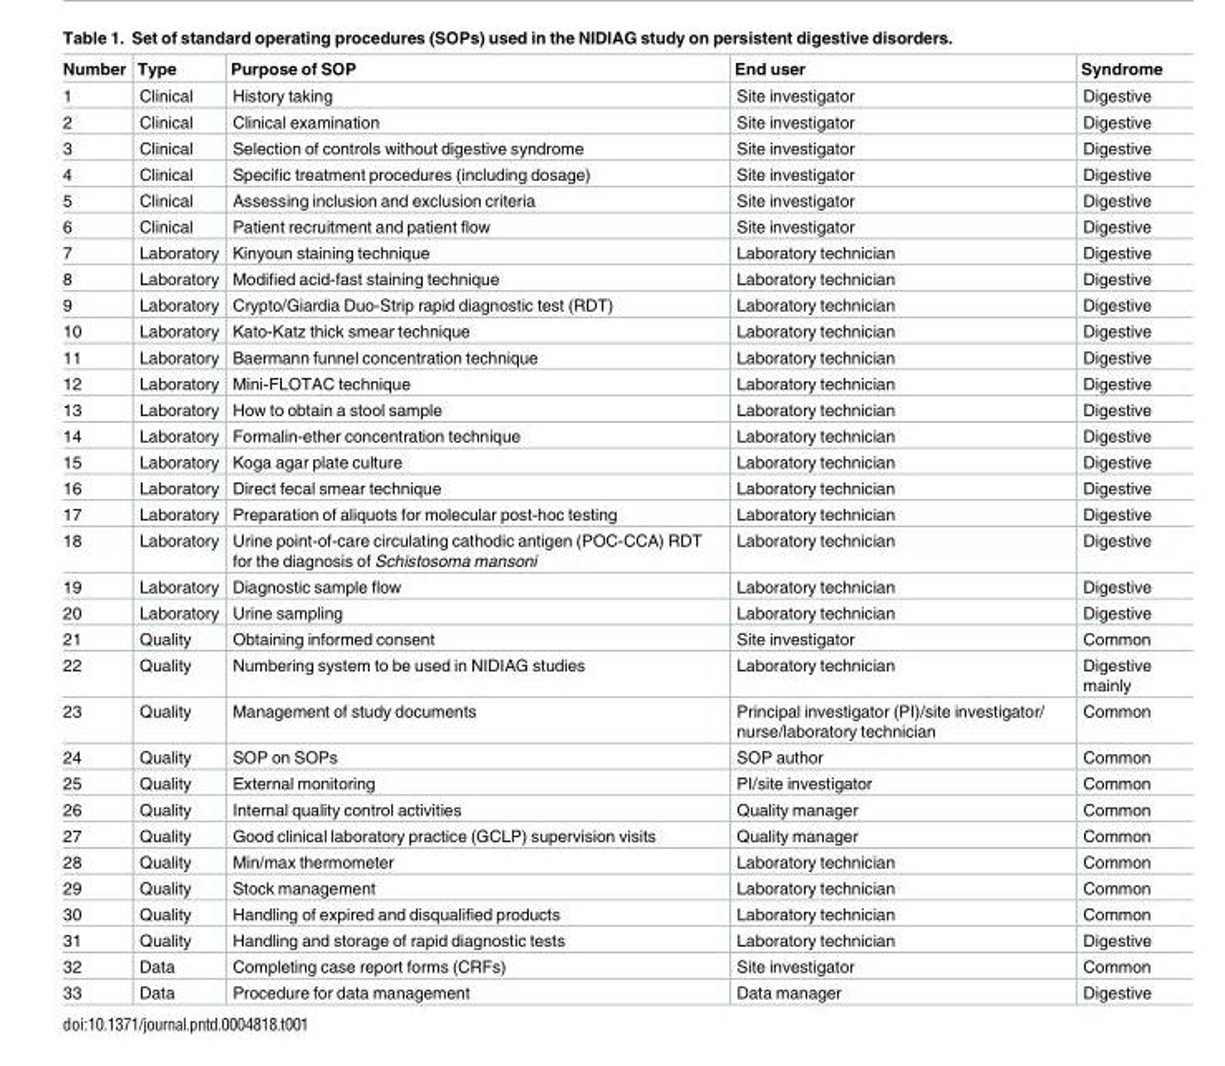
<table><thead><tr><td>Number</td><td>Type</td><td>Purpose of SOP</td><td>End user</td><td>Syndrome</td></tr></thead><tbody><tr><td>1</td><td>Clinical</td><td>History taking</td><td>Site investigator</td><td>Digestive</td></tr><tr><td>2</td><td>Clinical</td><td>Clinical examination</td><td>Site investigator</td><td>Digestive</td></tr><tr><td>3</td><td>Clinical</td><td>Selection of controls without digestive syndrome</td><td>Site investigator</td><td>Digestive</td></tr><tr><td>4</td><td>Clinical</td><td>Specific treatment procedures (including dosage)</td><td>Site investigator</td><td>Digestive</td></tr><tr><td>5</td><td>Clinical</td><td>Assessing inclusion and exclusion criteria</td><td>Site investigator</td><td>Digestive</td></tr><tr><td>6</td><td>Clinical</td><td>Patient recruitment and patient flow</td><td>Site investigator</td><td>Digestive</td></tr><tr><td>7</td><td>Laboratory</td><td>Kinyoun staining technique</td><td>Laboratory technician</td><td>Digestive</td></tr><tr><td>8</td><td>Laboratory</td><td>Modified acid-fast staining technique</td><td>Laboratory technician</td><td>Digestive</td></tr><tr><td>9</td><td>Laboratory</td><td>Crypto/Giardia Duo-Strip rapid diagnostic test (RDT)</td><td>Laboratory technician</td><td>Digestive</td></tr><tr><td>10</td><td>Laboratory</td><td>Kato-Katz thick smear technique</td><td>Laboratory technician</td><td>Digestive</td></tr><tr><td>11</td><td>Laboratory</td><td>Baermann funnel concentration technique</td><td>Laboratory technician</td><td>Digestive</td></tr><tr><td>12</td><td>Laboratory</td><td>Mini-FLOTAC technique</td><td>Laboratory technician</td><td>Digestive</td></tr><tr><td>13</td><td>Laboratory</td><td>How to obtain a stool sample</td><td>Laboratory technician</td><td>Digestive</td></tr><tr><td>14</td><td>Laboratory</td><td>Formalin-ether concentration technique</td><td>Laboratory technician</td><td>Digestive</td></tr><tr><td>15</td><td>Laboratory</td><td>Koga agar plate culture</td><td>Laboratory technician</td><td>Digestive</td></tr><tr><td>16</td><td>Laboratory</td><td>Direct fecal smear technique</td><td>Laboratory technician</td><td>Digestive</td></tr><tr><td>17</td><td>Laboratory</td><td>Preparation of aliquots for molecular post-hoc testing</td><td>Laboratory technician</td><td>Digestive</td></tr><tr><td>18</td><td>Laboratory</td><td>Urine point-of-care circulating cathodic antigen (POC-CCA) RDT for the diagnosis of Schistosoma mansoni</td><td>Laboratory technician</td><td>Digestive</td></tr><tr><td>19</td><td>Laboratory</td><td>Diagnostic sample flow</td><td>Laboratory technician</td><td>Digestive</td></tr><tr><td>20</td><td>Laboratory</td><td>Urine sampling</td><td>Laboratory technician</td><td>Digestive</td></tr><tr><td>21</td><td>Quality</td><td>Obtaining informed consent</td><td>Site investigator</td><td>Common</td></tr><tr><td>22</td><td>Quality</td><td>Numbering system to be used in NIDIAG studies</td><td>Laboratory technician</td><td>Digestive mainly</td></tr><tr><td>23</td><td>Quality</td><td>Management of study documents</td><td>Principal investigator (PI)/site investigator/ nurse/laboratory technician</td><td>Common</td></tr><tr><td>24</td><td>Quality</td><td>SOP on SOPs</td><td>SOP author</td><td>Common</td></tr><tr><td>25</td><td>Quality</td><td>External monitoring</td><td>PI/site investigator</td><td>Common</td></tr><tr><td>26</td><td>Quality</td><td>Internal quality control activities</td><td>Quality manager</td><td>Common</td></tr><tr><td>27</td><td>Quality</td><td>Good clinical laboratory practice (GCLP) supervision visits</td><td>Quality manager</td><td>Common</td></tr><tr><td>28</td><td>Quality</td><td>Min/max thermometer</td><td>Laboratory technician</td><td>Common</td></tr><tr><td>29</td><td>Quality</td><td>Stock management</td><td>Laboratory technician</td><td>Common</td></tr><tr><td>30</td><td>Quality</td><td>Handling of expired and disqualified products</td><td>Laboratory technician</td><td>Common</td></tr><tr><td>31</td><td>Quality</td><td>Handling and storage of rapid diagnostic tests</td><td>Laboratory technician</td><td>Digestive</td></tr><tr><td>32</td><td>Data</td><td>Completing case report forms (CRFs)</td><td>Site investigator</td><td>Common</td></tr><tr><td>33</td><td>Data</td><td>Procedure for data management</td><td>Data manager</td><td>Digestive</td></tr></tbody></table>